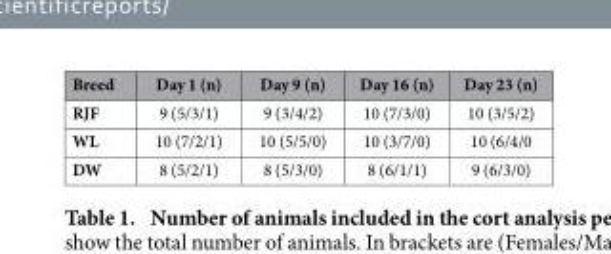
<table><thead><tr><td>Breed</td><td>Day 1 (n)</td><td>Day 9 (n)</td><td>Day 16 (n)</td><td>Day 23 (n)</td></tr></thead><tbody><tr><td>RJF</td><td>9 (5/3/1)</td><td>9 (3/4/2)</td><td>10 (7/3/0)</td><td>10 (3/5/2)</td></tr><tr><td>WL</td><td>10 (7/2/1)</td><td>10 (5/5/0)</td><td>10 (3/7/0)</td><td>10 (6/4/0</td></tr><tr><td>DW</td><td>8 (5/2/1)</td><td>8 (5/3/0)</td><td>8 (6/1/1)</td><td>9 (6/3/0)</td></tr></tbody></table>